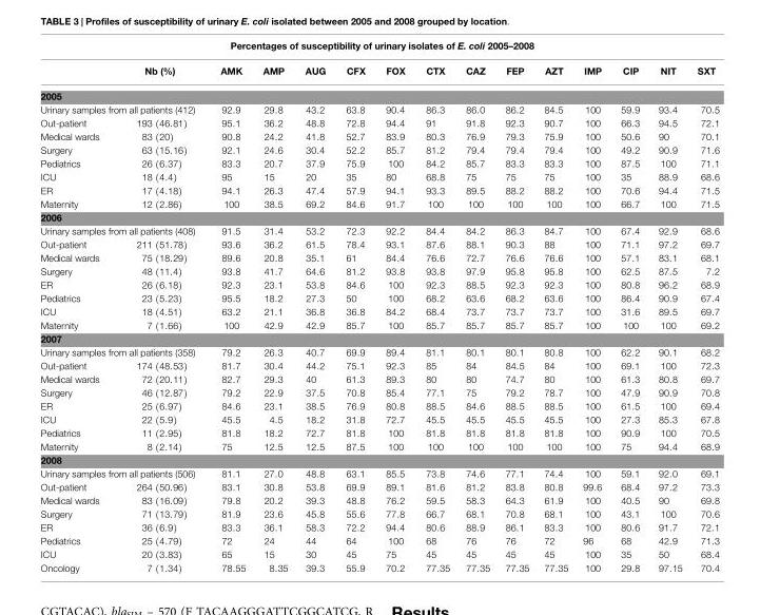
<table><thead><tr><td colspan="15">Percentages of susceptibility of urinary isolates of E. coli 2005–2008</td></tr><tr><td></td><td>Nb (%)</td><td>AMK</td><td>AMP</td><td>AUG</td><td>CFX</td><td>FOX</td><td>CTX</td><td>CAZ</td><td>FEP</td><td>AZT</td><td>IMP</td><td>CIP</td><td>NIT</td><td>SXT</td></tr></thead><tbody><tr><td colspan="15">2005</td></tr><tr><td colspan="2">Urinary samples from all patients (412)</td><td>92.9</td><td>29.8</td><td>43.2</td><td>63.8</td><td>90.4</td><td>86.3</td><td>86.0</td><td>86.2</td><td>84.5</td><td>100</td><td>59.9</td><td>93.4</td><td>70.5</td></tr><tr><td>Out-patient</td><td>193 (46.81)</td><td>95.1</td><td>36.2</td><td>48.8</td><td>72.8</td><td>94.4</td><td>91</td><td>91.8</td><td>92.3</td><td>90.7</td><td>100</td><td>66.3</td><td>94.5</td><td>72.1</td></tr><tr><td>Medical wards</td><td>83 (20)</td><td>90.8</td><td>24.2</td><td>41.8</td><td>52.7</td><td>83.9</td><td>80.3</td><td>76.9</td><td>79.3</td><td>75.9</td><td>100</td><td>50.6</td><td>90</td><td>70.1</td></tr><tr><td>Surgery</td><td>63 (15.16)</td><td>92.1</td><td>24.6</td><td>30.4</td><td>52.2</td><td>85.7</td><td>81.2</td><td>79.4</td><td>79.4</td><td>79.4</td><td>100</td><td>49.2</td><td>90.9</td><td>71.6</td></tr><tr><td>Pediatrics</td><td>26 (6.37)</td><td>83.3</td><td>20.7</td><td>37.9</td><td>75.9</td><td>100</td><td>84.2</td><td>85.7</td><td>83.3</td><td>83.3</td><td>100</td><td>87.5</td><td>100</td><td>71.1</td></tr><tr><td>ICU</td><td>18 (4.4)</td><td>95</td><td>15</td><td>20</td><td>35</td><td>80</td><td>68.8</td><td>75</td><td>75</td><td>75</td><td>100</td><td>35</td><td>88.9</td><td>68.6</td></tr><tr><td>ER</td><td>17 (4.18)</td><td>94.1</td><td>26.3</td><td>47.4</td><td>57.9</td><td>94.1</td><td>93.3</td><td>89.5</td><td>88.2</td><td>88.2</td><td>100</td><td>70.6</td><td>94.4</td><td>71.5</td></tr><tr><td>Maternity</td><td>12 (2.86)</td><td>100</td><td>38.5</td><td>69.2</td><td>84.6</td><td>91.7</td><td>100</td><td>100</td><td>100</td><td>100</td><td>100</td><td>66.7</td><td>100</td><td>71.5</td></tr><tr><td colspan="15">2006</td></tr><tr><td colspan="2">Urinary samples from all patients (408)</td><td>91.5</td><td>31.4</td><td>53.2</td><td>72.3</td><td>92.2</td><td>84.4</td><td>84.2</td><td>86.3</td><td>84.7</td><td>100</td><td>67.4</td><td>92.9</td><td>68.6</td></tr><tr><td>Out-patient</td><td>211 (51.78)</td><td>93.6</td><td>36.2</td><td>61.5</td><td>78.4</td><td>93.1</td><td>87.6</td><td>88.1</td><td>90.3</td><td>88</td><td>100</td><td>71.1</td><td>97.2</td><td>69.7</td></tr><tr><td>Medical wards</td><td>75 (18.29)</td><td>89.6</td><td>20.8</td><td>35.1</td><td>61</td><td>84.4</td><td>76.6</td><td>72.7</td><td>76.6</td><td>76.6</td><td>100</td><td>57.1</td><td>83.1</td><td>68.1</td></tr><tr><td>Surgery</td><td>48 (11.4)</td><td>93.8</td><td>41.7</td><td>64.6</td><td>81.2</td><td>93.8</td><td>93.8</td><td>97.9</td><td>95.8</td><td>95.8</td><td>100</td><td>62.5</td><td>87.5</td><td>7.2</td></tr><tr><td>ER</td><td>26 (6.18)</td><td>92.3</td><td>23.1</td><td>53.8</td><td>84.6</td><td>100</td><td>92.3</td><td>88.5</td><td>92.3</td><td>92.3</td><td>100</td><td>80.8</td><td>96.2</td><td>68.9</td></tr><tr><td>Pediatrics</td><td>23 (5.23)</td><td>95.5</td><td>18.2</td><td>27.3</td><td>50</td><td>100</td><td>68.2</td><td>63.6</td><td>68.2</td><td>63.6</td><td>100</td><td>86.4</td><td>90.9</td><td>67.4</td></tr><tr><td>ICU</td><td>18 (4.51)</td><td>63.2</td><td>21.1</td><td>36.8</td><td>36.8</td><td>84.2</td><td>68.4</td><td>73.7</td><td>73.7</td><td>73.7</td><td>100</td><td>31.6</td><td>89.5</td><td>69.7</td></tr><tr><td>Maternity</td><td>7 (1.66)</td><td>100</td><td>42.9</td><td>42.9</td><td>85.7</td><td>100</td><td>85.7</td><td>85.7</td><td>85.7</td><td>85.7</td><td>100</td><td>100</td><td>100</td><td>69.2</td></tr><tr><td colspan="15">2007</td></tr><tr><td colspan="2">Urinary samples from all patients (358)</td><td>79.2</td><td>26.3</td><td>40.7</td><td>69.9</td><td>89.4</td><td>81.1</td><td>80.1</td><td>80.1</td><td>80.8</td><td>100</td><td>62.2</td><td>90.1</td><td>68.2</td></tr><tr><td>Out-patient</td><td>174 (48.53)</td><td>81.7</td><td>30.4</td><td>44.2</td><td>75.1</td><td>92.3</td><td>85</td><td>84</td><td>84.5</td><td>84</td><td>100</td><td>69.1</td><td>100</td><td>72.3</td></tr><tr><td>Medical wards</td><td>72 (20.11)</td><td>82.7</td><td>29.3</td><td>40</td><td>61.3</td><td>89.3</td><td>80</td><td>80</td><td>74.7</td><td>80</td><td>100</td><td>61.3</td><td>80.8</td><td>69.7</td></tr><tr><td>Surgery</td><td>46 (12.87)</td><td>79.2</td><td>22.9</td><td>37.5</td><td>70.8</td><td>85.4</td><td>77.1</td><td>75</td><td>79.2</td><td>78.7</td><td>100</td><td>47.9</td><td>90.9</td><td>70.8</td></tr><tr><td>ER</td><td>25 (6.97)</td><td>84.6</td><td>23.1</td><td>38.5</td><td>76.9</td><td>80.8</td><td>88.5</td><td>84.6</td><td>88.5</td><td>88.5</td><td>100</td><td>61.5</td><td>100</td><td>69.4</td></tr><tr><td>ICU</td><td>22 (5.9)</td><td>45.5</td><td>4.5</td><td>18.2</td><td>31.8</td><td>72.7</td><td>45.5</td><td>45.5</td><td>45.5</td><td>45.5</td><td>100</td><td>27.3</td><td>85.3</td><td>67.8</td></tr><tr><td>Pediatrics</td><td>11 (2.95)</td><td>81.8</td><td>18.2</td><td>72.7</td><td>81.8</td><td>100</td><td>81.8</td><td>81.8</td><td>81.8</td><td>81.8</td><td>100</td><td>90.9</td><td>100</td><td>70.5</td></tr><tr><td>Maternity</td><td>8 (2.14)</td><td>75</td><td>12.5</td><td>12.5</td><td>87.5</td><td>100</td><td>100</td><td>100</td><td>100</td><td>100</td><td>100</td><td>75</td><td>94.4</td><td>68.9</td></tr><tr><td colspan="15">2008</td></tr><tr><td colspan="2">Urinary samples from all patients (506)</td><td>81.1</td><td>27.0</td><td>48.8</td><td>63.1</td><td>85.5</td><td>73.8</td><td>74.6</td><td>77.1</td><td>74.4</td><td>100</td><td>59.1</td><td>92.0</td><td>69.1</td></tr><tr><td>Out-patient</td><td>264 (50.96)</td><td>83.1</td><td>30.8</td><td>53.8</td><td>69.9</td><td>89.1</td><td>81.6</td><td>81.2</td><td>83.8</td><td>80.8</td><td>99.6</td><td>68.4</td><td>97.2</td><td>73.3</td></tr><tr><td>Medical wards</td><td>83 (16.09)</td><td>79.8</td><td>20.2</td><td>39.3</td><td>48.8</td><td>76.2</td><td>59.5</td><td>58.3</td><td>64.3</td><td>61.9</td><td>100</td><td>40.5</td><td>90</td><td>69.8</td></tr><tr><td>Surgery</td><td>71 (13.79)</td><td>81.9</td><td>23.6</td><td>45.8</td><td>55.6</td><td>77.8</td><td>66.7</td><td>68.1</td><td>70.8</td><td>68.1</td><td>100</td><td>43.1</td><td>100</td><td>70.6</td></tr><tr><td>ER</td><td>36 (6.9)</td><td>83.3</td><td>36.1</td><td>58.3</td><td>72.2</td><td>94.4</td><td>80.6</td><td>88.9</td><td>86.1</td><td>83.3</td><td>100</td><td>80.6</td><td>91.7</td><td>72.1</td></tr><tr><td>Pediatrics</td><td>25 (4.79)</td><td>72</td><td>24</td><td>44</td><td>64</td><td>100</td><td>68</td><td>76</td><td>76</td><td>72</td><td>96</td><td>68</td><td>42.9</td><td>71.3</td></tr><tr><td>ICU</td><td>20 (3.83)</td><td>65</td><td>15</td><td>30</td><td>45</td><td>75</td><td>45</td><td>45</td><td>45</td><td>45</td><td>100</td><td>35</td><td>50</td><td>68.4</td></tr><tr><td>Oncology</td><td>7 (1.34)</td><td>78.55</td><td>8.35</td><td>39.3</td><td>55.9</td><td>70.2</td><td>77.35</td><td>77.35</td><td>77.35</td><td>77.35</td><td>100</td><td>29.8</td><td>97.15</td><td>70.4</td></tr></tbody></table>